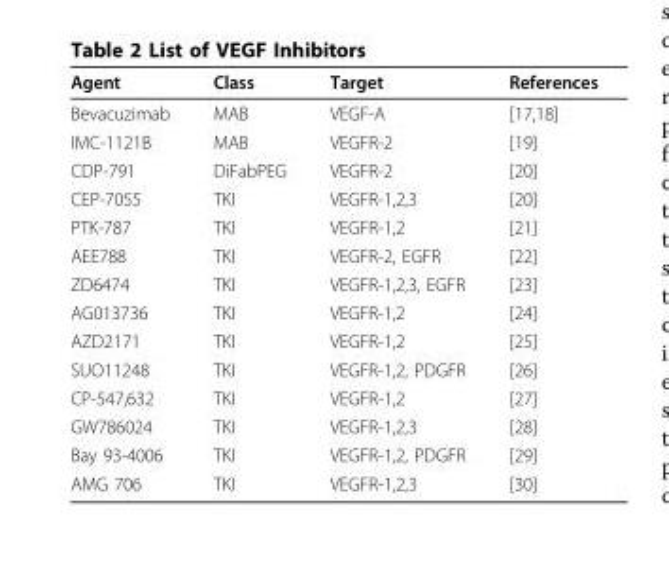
<table><thead><tr><td>Agent</td><td>Class</td><td>Target</td><td>References</td></tr></thead><tbody><tr><td>Bevacuzimab</td><td>MAB</td><td>VEGF-A</td><td>[17,18]</td></tr><tr><td>IMC-1121B</td><td>MAB</td><td>VEGFR-2</td><td>[19]</td></tr><tr><td>CDP-791</td><td>DiFabPEG</td><td>VEGFR-2</td><td>[20]</td></tr><tr><td>CEP-7055</td><td>TKI</td><td>VEGFR-1,2,3</td><td>[20]</td></tr><tr><td>PTK-787</td><td>TKI</td><td>VEGFR-1,2</td><td>[21]</td></tr><tr><td>AEE788</td><td>TKI</td><td>VEGFR-2, EGFR</td><td>[22]</td></tr><tr><td>ZD6474</td><td>TKI</td><td>VEGFR-1,2,3, EGFR</td><td>[23]</td></tr><tr><td>AG013736</td><td>TKI</td><td>VEGFR-1,2</td><td>[24]</td></tr><tr><td>AZD2171</td><td>TKI</td><td>VEGFR-1,2</td><td>[25]</td></tr><tr><td>SUO11248</td><td>TKI</td><td>VEGFR-1,2, PDGFR</td><td>[26]</td></tr><tr><td>CP-547,632</td><td>TKI</td><td>VEGFR-1,2</td><td>[27]</td></tr><tr><td>GW786024</td><td>TKI</td><td>VEGFR-1,2,3</td><td>[28]</td></tr><tr><td>Bay 93-4006</td><td>TKI</td><td>VEGFR-1,2, PDGFR</td><td>[29]</td></tr><tr><td>AMG 706</td><td>TKI</td><td>VEGFR-1,2,3</td><td>[30]</td></tr></tbody></table>